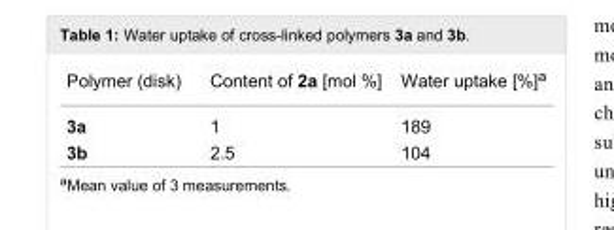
<table><tbody><tr><td>Polymer (disk)</td><td>Content of 2a [mol %]</td><td>Water uptake [%]<sup>a</sup></td></tr><tr><td>3a</td><td>1</td><td>189</td></tr><tr><td>3b</td><td>2.5</td><td>104</td></tr></tbody></table>